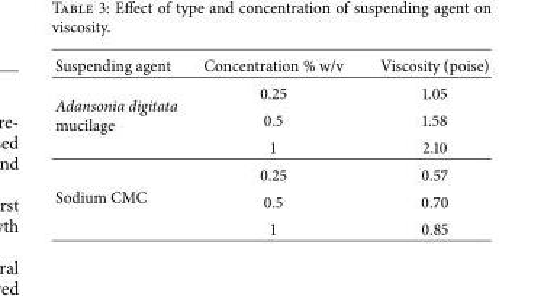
<table><thead><tr><td>Suspending agent</td><td>Concentration % w/v</td><td>Viscosity (poise)</td></tr></thead><tbody><tr><td rowspan="3">Adansonia digitata mucilage</td><td>0.25</td><td>1.05</td></tr><tr><td>0.5</td><td>1.58</td></tr><tr><td>1</td><td>2.10</td></tr><tr><td rowspan="3">Sodium CMC</td><td>0.25</td><td>0.57</td></tr><tr><td>0.5</td><td>0.70</td></tr><tr><td>1</td><td>0.85</td></tr></tbody></table>